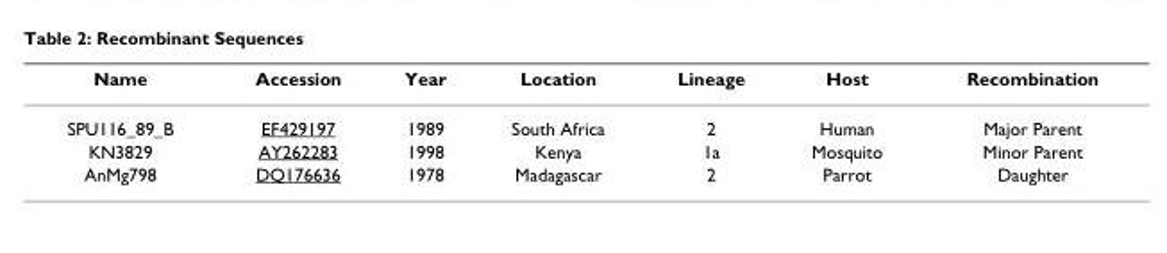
<table><thead><tr><td>Name</td><td>Accession</td><td>Year</td><td>Location</td><td>Lineage</td><td>Host</td><td>Recombination</td></tr></thead><tbody><tr><td>SPU116_89_B</td><td>EF429197</td><td>1989</td><td>South Africa</td><td>2</td><td>Human</td><td>Major Parent</td></tr><tr><td>KN3829</td><td>AY262283</td><td>1998</td><td>Kenya</td><td>1a</td><td>Mosquito</td><td>Minor Parent</td></tr><tr><td>AnMg798</td><td>DQ176636</td><td>1978</td><td>Madagascar</td><td>2</td><td>Parrot</td><td>Daughter</td></tr></tbody></table>